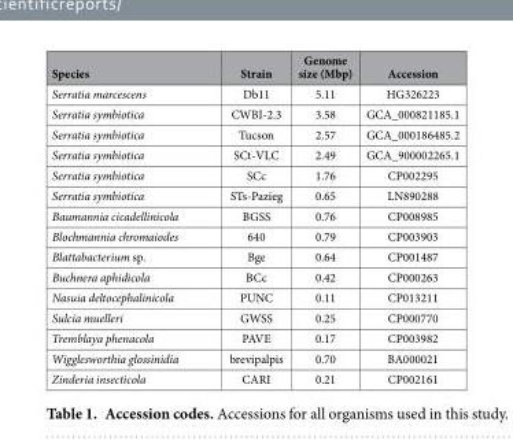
<table><thead><tr><td>Species</td><td>Strain</td><td>Genome size (Mbp)</td><td>Accession</td></tr></thead><tbody><tr><td>Serratia marcescens</td><td>Db11</td><td>5.11</td><td>HG326223</td></tr><tr><td>Serratia symbiotica</td><td>CWBI-2.3</td><td>3.58</td><td>GCA_000821185.1</td></tr><tr><td>Serratia symbiotica</td><td>Tucson</td><td>2.57</td><td>GCA_000186485.2</td></tr><tr><td>Serratia symbiotica</td><td>SCt-VLC</td><td>2.49</td><td>GCA_900002265.1</td></tr><tr><td>Serratia symbiotica</td><td>SCc</td><td>1.76</td><td>CP002295</td></tr><tr><td>Serratia symbiotica</td><td>STs-Pazieg</td><td>0.65</td><td>LN890288</td></tr><tr><td>Baumannia cicadellinicola</td><td>BGSS</td><td>0.76</td><td>CP008985</td></tr><tr><td>Blochmannia chromaiodes</td><td>640</td><td>0.79</td><td>CP003903</td></tr><tr><td>Blattabacterium sp.</td><td>Bge</td><td>0.64</td><td>CP001487</td></tr><tr><td>Buchnera aphidicola</td><td>BCc</td><td>0.42</td><td>CP000263</td></tr><tr><td>Nasuia deltocephalinicola</td><td>PUNC</td><td>0.11</td><td>CP013211</td></tr><tr><td>Sulcia muelleri</td><td>GWSS</td><td>0.25</td><td>CP000770</td></tr><tr><td>Tremblaya phenacola</td><td>PAVE</td><td>0.17</td><td>CP003982</td></tr><tr><td>Wigglesworthia glossinidia</td><td>brevipalpis</td><td>0.70</td><td>BA000021</td></tr><tr><td>Zinderia insecticola</td><td>CARI</td><td>0.21</td><td>CP002161</td></tr></tbody></table>